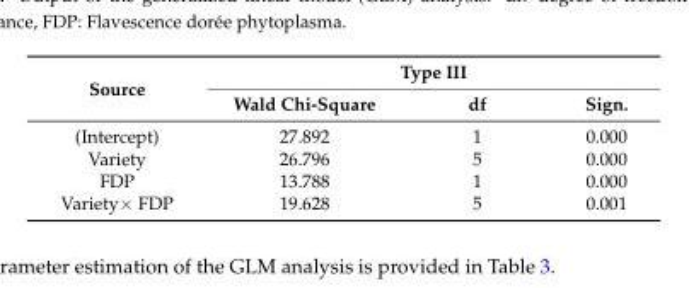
<table><thead><tr><td rowspan="2">Source</td><td colspan="3">Type III</td></tr><tr><td>Wald Chi-Square</td><td>df</td><td>Sign.</td></tr></thead><tbody><tr><td>(Intercept)</td><td>27.892</td><td>1</td><td>0.000</td></tr><tr><td>Variety</td><td>26.796</td><td>5</td><td>0.000</td></tr><tr><td>FDP</td><td>13.788</td><td>1</td><td>0.000</td></tr><tr><td>Variety× FDP</td><td>19.628</td><td>5</td><td>0.001</td></tr></tbody></table>